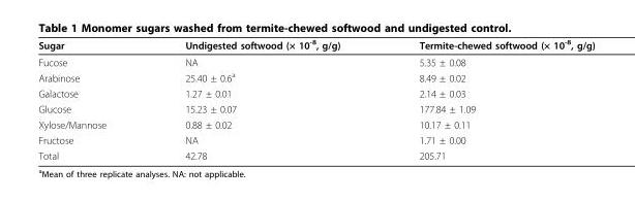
<table><thead><tr><td>Sugar</td><td>Undigested softwood (× 10<sup>-8</sup>, g/g)</td><td>Termite-chewed softwood (× 10<sup>-8</sup>, g/g)</td></tr></thead><tbody><tr><td>Fucose</td><td>NA</td><td>5.35 ± 0.08</td></tr><tr><td>Arabinose</td><td>25.40 ± 0.6<sup>a</sup></td><td>8.49 ± 0.02</td></tr><tr><td>Galactose</td><td>1.27 ± 0.01</td><td>2.14 ± 0.03</td></tr><tr><td>Glucose</td><td>15.23 ± 0.07</td><td>177.84 ± 1.09</td></tr><tr><td>Xylose/Mannose</td><td>0.88 ± 0.02</td><td>10.17 ± 0.11</td></tr><tr><td>Fructose</td><td>NA</td><td>1.71 ± 0.00</td></tr><tr><td>Total</td><td>42.78</td><td>205.71</td></tr></tbody></table>